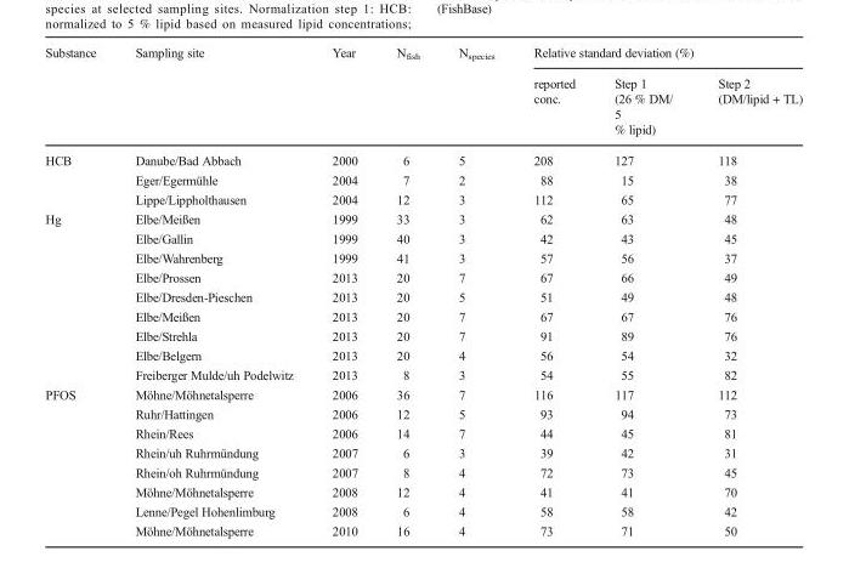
<table><thead><tr><td rowspan="2">Substance</td><td rowspan="2">Sampling site</td><td rowspan="2">Year</td><td rowspan="2">N<sub>fish</sub></td><td rowspan="2">N<sub>species</sub></td><td colspan="3">Relative standard deviation (%)</td></tr><tr><td>reported conc.</td><td>Step 1 (26 % DM/ 5 % lipid)</td><td>Step 2 (DM/lipid + TL)</td></tr></thead><tbody><tr><td rowspan="3">HCB</td><td>Danube/Bad Abbach</td><td>2000</td><td>6</td><td>5</td><td>208</td><td>127</td><td>118</td></tr><tr><td>Eger/Egermühle</td><td>2004</td><td>7</td><td>2</td><td>88</td><td>15</td><td>38</td></tr><tr><td>Lippe/Lippholthausen</td><td>2004</td><td>12</td><td>3</td><td>112</td><td>65</td><td>77</td></tr><tr><td rowspan="9">Hg</td><td>Elbe/Meißen</td><td>1999</td><td>33</td><td>3</td><td>62</td><td>63</td><td>48</td></tr><tr><td>Elbe/Gallin</td><td>1999</td><td>40</td><td>3</td><td>42</td><td>43</td><td>45</td></tr><tr><td>Elbe/Wahrenberg</td><td>1999</td><td>41</td><td>3</td><td>57</td><td>56</td><td>37</td></tr><tr><td>Elbe/Prossen</td><td>2013</td><td>20</td><td>7</td><td>67</td><td>66</td><td>49</td></tr><tr><td>Elbe/Dresden-Pieschen</td><td>2013</td><td>20</td><td>5</td><td>51</td><td>49</td><td>48</td></tr><tr><td>Elbe/Meißen</td><td>2013</td><td>20</td><td>7</td><td>67</td><td>67</td><td>76</td></tr><tr><td>Elbe/Strehla</td><td>2013</td><td>20</td><td>7</td><td>91</td><td>89</td><td>76</td></tr><tr><td>Elbe/Belgern</td><td>2013</td><td>20</td><td>4</td><td>56</td><td>54</td><td>32</td></tr><tr><td>Freiberger Mulde/uh Podelwitz</td><td>2013</td><td>8</td><td>3</td><td>54</td><td>55</td><td>82</td></tr><tr><td rowspan="8">PFOS</td><td>Möhne/Möhnetalsperre</td><td>2006</td><td>36</td><td>7</td><td>116</td><td>117</td><td>112</td></tr><tr><td>Ruhr/Hattingen</td><td>2006</td><td>12</td><td>5</td><td>93</td><td>94</td><td>73</td></tr><tr><td>Rhein/Rees</td><td>2006</td><td>14</td><td>7</td><td>44</td><td>45</td><td>81</td></tr><tr><td>Rhein/uh Ruhrmündung</td><td>2007</td><td>6</td><td>3</td><td>39</td><td>42</td><td>31</td></tr><tr><td>Rhein/oh Ruhrmündung</td><td>2007</td><td>8</td><td>4</td><td>72</td><td>73</td><td>45</td></tr><tr><td>Möhne/Möhnetalsperre</td><td>2008</td><td>12</td><td>4</td><td>41</td><td>41</td><td>70</td></tr><tr><td>Lenne/Pegel Hohenlimburg</td><td>2008</td><td>6</td><td>4</td><td>58</td><td>58</td><td>42</td></tr><tr><td>Möhne/Möhnetalsperre</td><td>2010</td><td>16</td><td>4</td><td>73</td><td>71</td><td>50</td></tr></tbody></table>